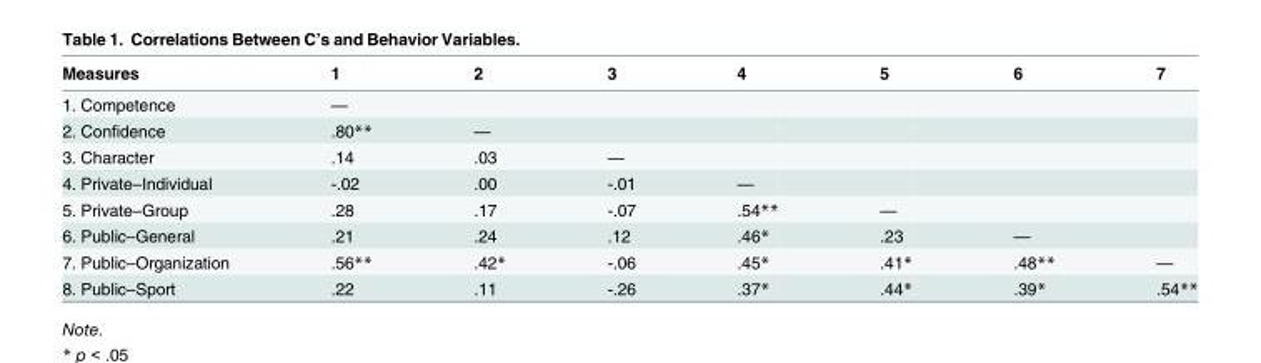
<table><thead><tr><td>Measures</td><td>1</td><td>2</td><td>3</td><td>4</td><td>5</td><td>6</td><td>7</td></tr></thead><tbody><tr><td>1. Competence</td><td>—</td><td></td><td></td><td></td><td></td><td></td><td></td></tr><tr><td>2. Confidence</td><td>.80**</td><td>—</td><td></td><td></td><td></td><td></td><td></td></tr><tr><td>3. Character</td><td>.14</td><td>.03</td><td>—</td><td></td><td></td><td></td><td></td></tr><tr><td>4. Private–Individual</td><td>-.02</td><td>.00</td><td>-.01</td><td>—</td><td></td><td></td><td></td></tr><tr><td>5. Private–Group</td><td>.28</td><td>.17</td><td>-.07</td><td>.54**</td><td>—</td><td></td><td></td></tr><tr><td>6. Public–General</td><td>.21</td><td>.24</td><td>.12</td><td>.46*</td><td>.23</td><td>—</td><td></td></tr><tr><td>7. Public–Organization</td><td>.56**</td><td>.42*</td><td>-.06</td><td>.45*</td><td>.41*</td><td>.48**</td><td>—</td></tr><tr><td>8. Public–Sport</td><td>.22</td><td>.11</td><td>-.26</td><td>.37*</td><td>.44*</td><td>.39*</td><td>.54**</td></tr></tbody></table>